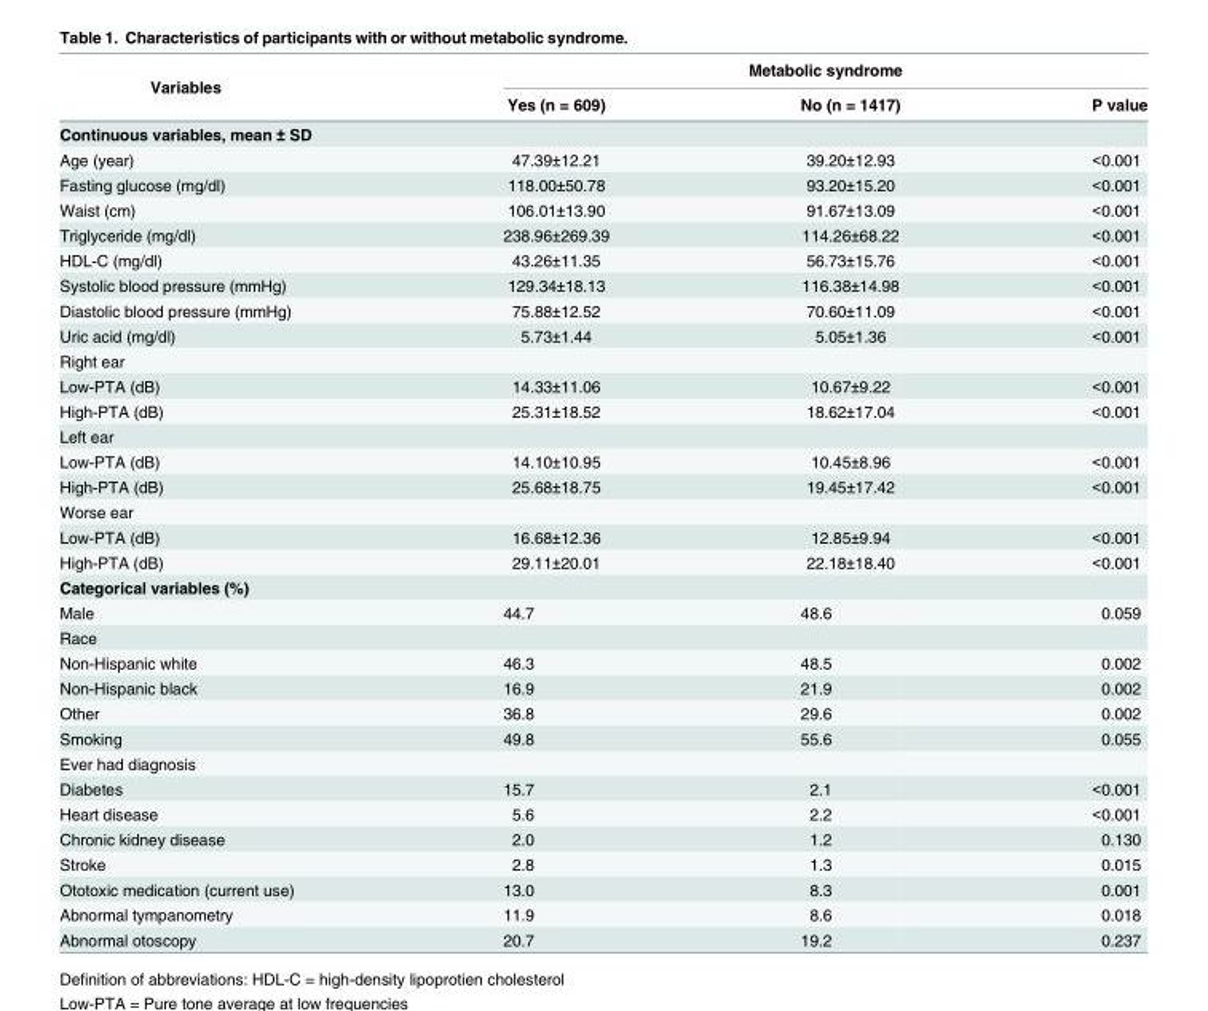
<table><thead><tr><td rowspan="2">Variables</td><td colspan="3">Metabolic syndrome</td></tr><tr><td>Yes (n = 609)</td><td>No (n = 1417)</td><td>P value</td></tr></thead><tbody><tr><td colspan="4">Continuous variables, mean ± SD</td></tr><tr><td>Age (year)</td><td>47.39±12.21</td><td>39.20±12.93</td><td>&lt;0.001</td></tr><tr><td>Fasting glucose (mg/dl)</td><td>118.00±50.78</td><td>93.20±15.20</td><td>&lt;0.001</td></tr><tr><td>Waist (cm)</td><td>106.01±13.90</td><td>91.67±13.09</td><td>&lt;0.001</td></tr><tr><td>Triglyceride (mg/dl)</td><td>238.96±269.39</td><td>114.26±68.22</td><td>&lt;0.001</td></tr><tr><td>HDL-C (mg/dl)</td><td>43.26±11.35</td><td>56.73±15.76</td><td>&lt;0.001</td></tr><tr><td>Systolic blood pressure (mmHg)</td><td>129.34±18.13</td><td>116.38±14.98</td><td>&lt;0.001</td></tr><tr><td>Diastolic blood pressure (mmHg)</td><td>75.88±12.52</td><td>70.60±11.09</td><td>&lt;0.001</td></tr><tr><td>Uric acid (mg/dl)</td><td>5.73±1.44</td><td>5.05±1.36</td><td>&lt;0.001</td></tr><tr><td colspan="4">Right ear</td></tr><tr><td>Low-PTA (dB)</td><td>14.33±11.06</td><td>10.67±9.22</td><td>&lt;0.001</td></tr><tr><td>High-PTA (dB)</td><td>25.31±18.52</td><td>18.62±17.04</td><td>&lt;0.001</td></tr><tr><td colspan="4">Left ear</td></tr><tr><td>Low-PTA (dB)</td><td>14.10±10.95</td><td>10.45±8.96</td><td>&lt;0.001</td></tr><tr><td>High-PTA (dB)</td><td>25.68±18.75</td><td>19.45±17.42</td><td>&lt;0.001</td></tr><tr><td colspan="4">Worse ear</td></tr><tr><td>Low-PTA (dB)</td><td>16.68±12.36</td><td>12.85±9.94</td><td>&lt;0.001</td></tr><tr><td>High-PTA (dB)</td><td>29.11±20.01</td><td>22.18±18.40</td><td>&lt;0.001</td></tr><tr><td colspan="4">Categorical variables (%)</td></tr><tr><td>Male</td><td>44.7</td><td>48.6</td><td>0.059</td></tr><tr><td colspan="4">Race</td></tr><tr><td>Non-Hispanic white</td><td>46.3</td><td>48.5</td><td>0.002</td></tr><tr><td>Non-Hispanic black</td><td>16.9</td><td>21.9</td><td>0.002</td></tr><tr><td>Other</td><td>36.8</td><td>29.6</td><td>0.002</td></tr><tr><td>Smoking</td><td>49.8</td><td>55.6</td><td>0.055</td></tr><tr><td colspan="4">Ever had diagnosis</td></tr><tr><td>Diabetes</td><td>15.7</td><td>2.1</td><td>&lt;0.001</td></tr><tr><td>Heart disease</td><td>5.6</td><td>2.2</td><td>&lt;0.001</td></tr><tr><td>Chronic kidney disease</td><td>2.0</td><td>1.2</td><td>0.130</td></tr><tr><td>Stroke</td><td>2.8</td><td>1.3</td><td>0.015</td></tr><tr><td>Ototoxic medication (current use)</td><td>13.0</td><td>8.3</td><td>0.001</td></tr><tr><td>Abnormal tympanometry</td><td>11.9</td><td>8.6</td><td>0.018</td></tr><tr><td>Abnormal otoscopy</td><td>20.7</td><td>19.2</td><td>0.237</td></tr></tbody></table>